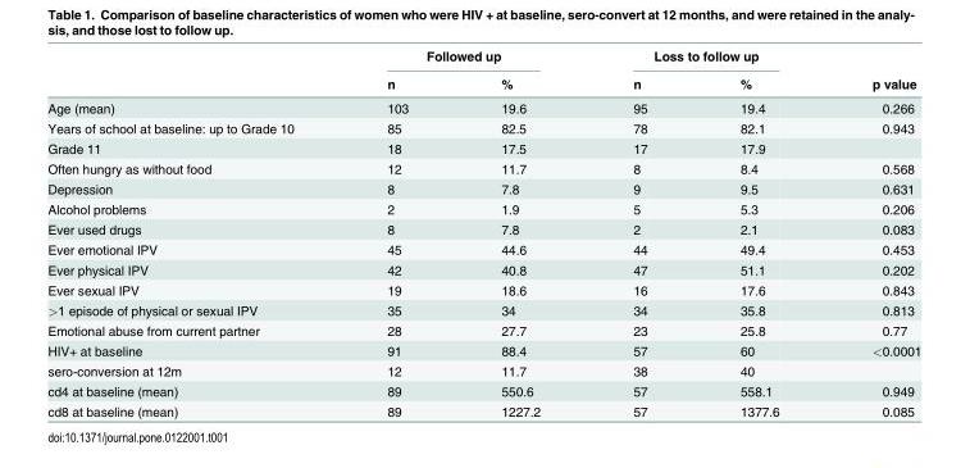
<table><thead><tr><td rowspan="2"></td><td colspan="2">Followed up</td><td colspan="2">Loss to follow up</td><td rowspan="2">p value</td></tr><tr><td>n</td><td>%</td><td>n</td><td>%</td></tr></thead><tbody><tr><td>Age (mean)</td><td>103</td><td>19.6</td><td>95</td><td>19.4</td><td>0.266</td></tr><tr><td>Years of school at baseline: up to Grade 10</td><td>85</td><td>82.5</td><td>78</td><td>82.1</td><td>0.943</td></tr><tr><td>Grade 11</td><td>18</td><td>17.5</td><td>17</td><td>17.9</td><td></td></tr><tr><td>Often hungry as without food</td><td>12</td><td>11.7</td><td>8</td><td>8.4</td><td>0.568</td></tr><tr><td>Depression</td><td>8</td><td>7.8</td><td>9</td><td>9.5</td><td>0.631</td></tr><tr><td>Alcohol problems</td><td>2</td><td>1.9</td><td>5</td><td>5.3</td><td>0.206</td></tr><tr><td>Ever used drugs</td><td>8</td><td>7.8</td><td>2</td><td>2.1</td><td>0.083</td></tr><tr><td>Ever emotional IPV</td><td>45</td><td>44.6</td><td>44</td><td>49.4</td><td>0.453</td></tr><tr><td>Ever physical IPV</td><td>42</td><td>40.8</td><td>47</td><td>51.1</td><td>0.202</td></tr><tr><td>Ever sexual IPV</td><td>19</td><td>18.6</td><td>16</td><td>17.6</td><td>0.843</td></tr><tr><td>&gt;1 episode of physical or sexual IPV</td><td>35</td><td>34</td><td>34</td><td>35.8</td><td>0.813</td></tr><tr><td>Emotional abuse from current partner</td><td>28</td><td>27.7</td><td>23</td><td>25.8</td><td>0.77</td></tr><tr><td>HIV+ at baseline</td><td>91</td><td>88.4</td><td>57</td><td>60</td><td>&lt;0.0001</td></tr><tr><td>sero-conversion at 12m</td><td>12</td><td>11.7</td><td>38</td><td>40</td><td></td></tr><tr><td>cd4 at baseline (mean)</td><td>89</td><td>550.6</td><td>57</td><td>558.1</td><td>0.949</td></tr><tr><td>cd8 at baseline (mean)</td><td>89</td><td>1227.2</td><td>57</td><td>1377.6</td><td>0.085</td></tr></tbody></table>